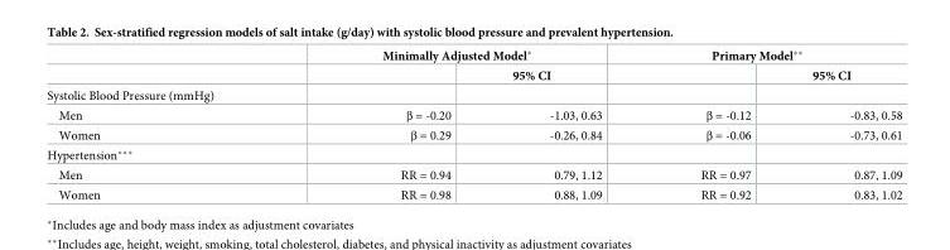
<table><thead><tr><td rowspan="2"></td><td colspan="2">Minimally Adjusted Model*</td><td colspan="2">Primary Model**</td></tr><tr><td></td><td>95% CI</td><td></td><td>95% CI</td></tr></thead><tbody><tr><td colspan="5">Systolic Blood Pressure (mmHg)</td></tr><tr><td>Men</td><td>β = -0.20</td><td>-1.03, 0.63</td><td>β = -0.12</td><td>-0.83, 0.58</td></tr><tr><td>Women</td><td>β = 0.29</td><td>-0.26, 0.84</td><td>β = -0.06</td><td>-0.73, 0.61</td></tr><tr><td colspan="5">Hypertension***</td></tr><tr><td>Men</td><td>RR = 0.94</td><td>0.79, 1.12</td><td>RR = 0.97</td><td>0.87, 1.09</td></tr><tr><td>Women</td><td>RR = 0.98</td><td>0.88, 1.09</td><td>RR = 0.92</td><td>0.83, 1.02</td></tr></tbody></table>